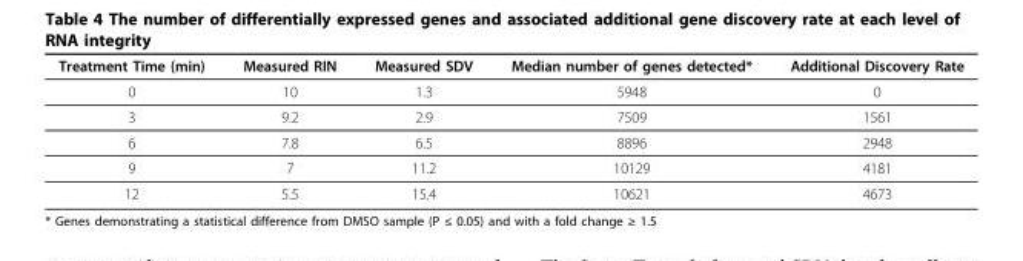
<table><thead><tr><td>Treatment Time (min)</td><td>Measured RIN</td><td>Measured SDV</td><td>Median number of genes detected*</td><td>Additional Discovery Rate</td></tr></thead><tbody><tr><td>0</td><td>10</td><td>1.3</td><td>5948</td><td>0</td></tr><tr><td>3</td><td>9.2</td><td>2.9</td><td>7509</td><td>1561</td></tr><tr><td>6</td><td>7.8</td><td>6.5</td><td>8896</td><td>2948</td></tr><tr><td>9</td><td>7</td><td>11.2</td><td>10129</td><td>4181</td></tr><tr><td>12</td><td>5.5</td><td>15.4</td><td>10621</td><td>4673</td></tr></tbody></table>